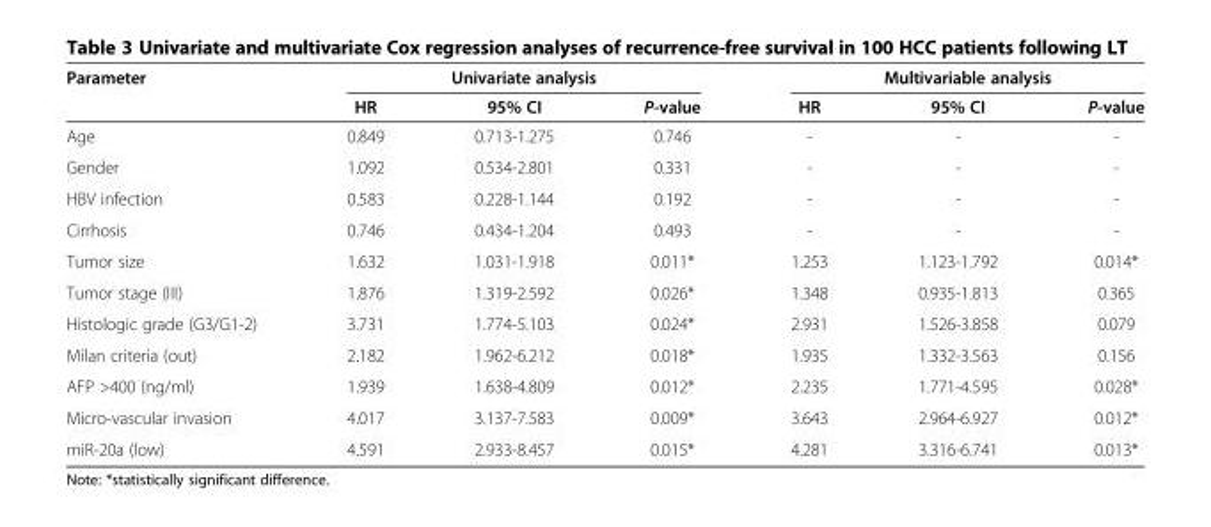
<table><thead><tr><td rowspan="2">Parameter</td><td colspan="3">Univariate analysis</td><td colspan="3">Multivariable analysis</td></tr><tr><td>HR</td><td>95% CI</td><td>P-value</td><td>HR</td><td>95% CI</td><td>P-value</td></tr></thead><tbody><tr><td>Age</td><td>0.849</td><td>0.713-1.275</td><td>0.746</td><td>-</td><td>-</td><td>-</td></tr><tr><td>Gender</td><td>1.092</td><td>0.534-2.801</td><td>0.331</td><td>-</td><td>-</td><td>-</td></tr><tr><td>HBV infection</td><td>0.583</td><td>0.228-1.144</td><td>0.192</td><td>-</td><td>-</td><td>-</td></tr><tr><td>Cirrhosis</td><td>0.746</td><td>0.434-1.204</td><td>0.493</td><td>-</td><td>-</td><td>-</td></tr><tr><td>Tumor size</td><td>1.632</td><td>1.031-1.918</td><td>0.011*</td><td>1.253</td><td>1.123-1.792</td><td>0.014*</td></tr><tr><td>Tumor stage (III)</td><td>1.876</td><td>1.319-2.592</td><td>0.026*</td><td>1.348</td><td>0.935-1.813</td><td>0.365</td></tr><tr><td>Histologic grade (G3/G1-2)</td><td>3.731</td><td>1.774-5.103</td><td>0.024*</td><td>2.931</td><td>1.526-3.858</td><td>0.079</td></tr><tr><td>Milan criteria (out)</td><td>2.182</td><td>1.962-6.212</td><td>0.018*</td><td>1.935</td><td>1.332-3.563</td><td>0.156</td></tr><tr><td>AFP &gt;400 (ng/ml)</td><td>1.939</td><td>1.638-4.809</td><td>0.012*</td><td>2.235</td><td>1.771-4.595</td><td>0.028*</td></tr><tr><td>Micro-vascular invasion</td><td>4.017</td><td>3.137-7.583</td><td>0.009*</td><td>3.643</td><td>2.964-6.927</td><td>0.012*</td></tr><tr><td>miR-20a (low)</td><td>4.591</td><td>2.933-8.457</td><td>0.015*</td><td>4.281</td><td>3.316-6.741</td><td>0.013*</td></tr></tbody></table>